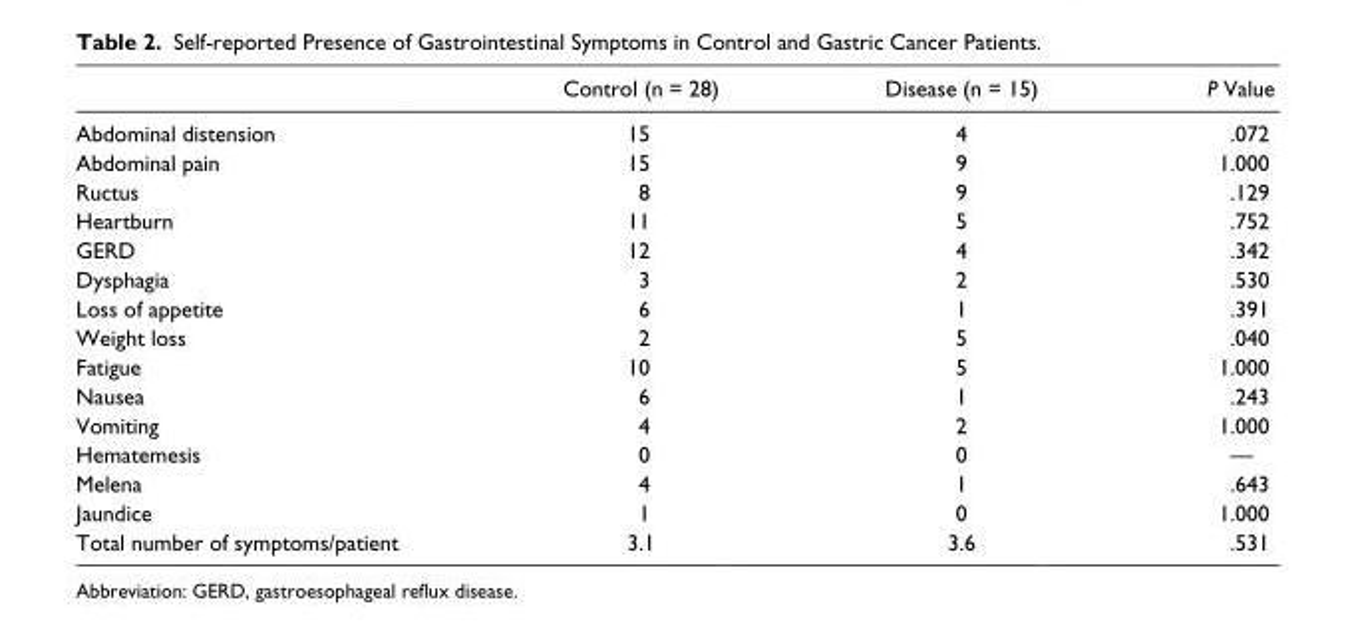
<table><thead><tr><td></td><td>Control (n = 28)</td><td>Disease (n = 15)</td><td>P Value</td></tr></thead><tbody><tr><td>Abdominal distension</td><td>15</td><td>4</td><td>.072</td></tr><tr><td>Abdominal pain</td><td>15</td><td>9</td><td>1.000</td></tr><tr><td>Ructus</td><td>8</td><td>9</td><td>.129</td></tr><tr><td>Heartburn</td><td>11</td><td>5</td><td>.752</td></tr><tr><td>GERD</td><td>12</td><td>4</td><td>.342</td></tr><tr><td>Dysphagia</td><td>3</td><td>2</td><td>.530</td></tr><tr><td>Loss of appetite</td><td>6</td><td>1</td><td>.391</td></tr><tr><td>Weight loss</td><td>2</td><td>5</td><td>.040</td></tr><tr><td>Fatigue</td><td>10</td><td>5</td><td>1.000</td></tr><tr><td>Nausea</td><td>6</td><td>1</td><td>.243</td></tr><tr><td>Vomiting</td><td>4</td><td>2</td><td>1.000</td></tr><tr><td>Hematemesis</td><td>0</td><td>0</td><td>—</td></tr><tr><td>Melena</td><td>4</td><td>1</td><td>.643</td></tr><tr><td>Jaundice</td><td>1</td><td>0</td><td>1.000</td></tr><tr><td>Total number of symptoms/patient</td><td>3.1</td><td>3.6</td><td>.531</td></tr></tbody></table>